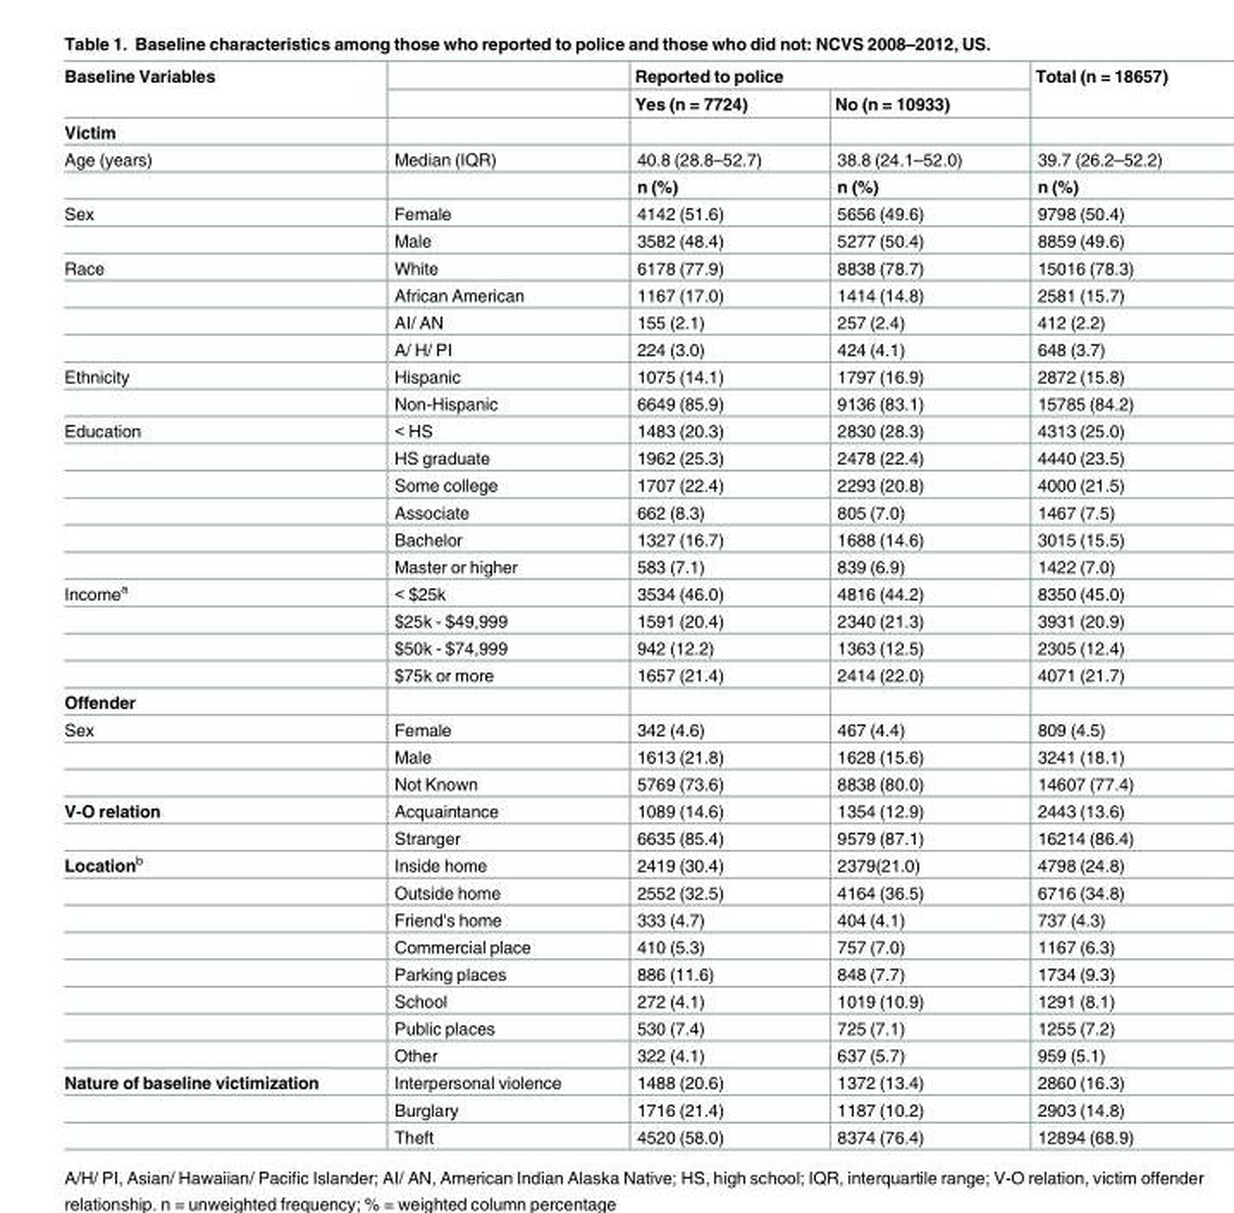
<table><thead><tr><td rowspan="2">Baseline Variables</td><td rowspan="2"></td><td colspan="2">Reported to police</td><td rowspan="2">Total (n = 18657)</td></tr><tr><td>Yes (n = 7724)</td><td>No (n = 10933)</td></tr></thead><tbody><tr><td colspan="5">Victim</td></tr><tr><td rowspan="2">Age (years)</td><td>Median (IQR)</td><td>40.8 (28.8–52.7)</td><td>38.8 (24.1–52.0)</td><td>39.7 (26.2–52.2)</td></tr><tr><td></td><td>n (%)</td><td>n (%)</td><td>n (%)</td></tr><tr><td rowspan="2">Sex</td><td>Female</td><td>4142 (51.6)</td><td>5656 (49.6)</td><td>9798 (50.4)</td></tr><tr><td>Male</td><td>3582 (48.4)</td><td>5277 (50.4)</td><td>8859 (49.6)</td></tr><tr><td rowspan="4">Race</td><td>White</td><td>6178 (77.9)</td><td>8838 (78.7)</td><td>15016 (78.3)</td></tr><tr><td>African American</td><td>1167 (17.0)</td><td>1414 (14.8)</td><td>2581 (15.7)</td></tr><tr><td>AI/ AN</td><td>155 (2.1)</td><td>257 (2.4)</td><td>412 (2.2)</td></tr><tr><td>A/ H/ PI</td><td>224 (3.0)</td><td>424 (4.1)</td><td>648 (3.7)</td></tr><tr><td rowspan="2">Ethnicity</td><td>Hispanic</td><td>1075 (14.1)</td><td>1797 (16.9)</td><td>2872 (15.8)</td></tr><tr><td>Non-Hispanic</td><td>6649 (85.9)</td><td>9136 (83.1)</td><td>15785 (84.2)</td></tr><tr><td rowspan="6">Education</td><td>&lt; HS</td><td>1483 (20.3)</td><td>2830 (28.3)</td><td>4313 (25.0)</td></tr><tr><td>HS graduate</td><td>1962 (25.3)</td><td>2478 (22.4)</td><td>4440 (23.5)</td></tr><tr><td>Some college</td><td>1707 (22.4)</td><td>2293 (20.8)</td><td>4000 (21.5)</td></tr><tr><td>Associate</td><td>662 (8.3)</td><td>805 (7.0)</td><td>1467 (7.5)</td></tr><tr><td>Bachelor</td><td>1327 (16.7)</td><td>1688 (14.6)</td><td>3015 (15.5)</td></tr><tr><td>Master or higher</td><td>583 (7.1)</td><td>839 (6.9)</td><td>1422 (7.0)</td></tr><tr><td rowspan="4">Income<sup>a</sup></td><td>&lt; $25k</td><td>3534 (46.0)</td><td>4816 (44.2)</td><td>8350 (45.0)</td></tr><tr><td>$25k - $49,999</td><td>1591 (20.4)</td><td>2340 (21.3)</td><td>3931 (20.9)</td></tr><tr><td>$50k - $74,999</td><td>942 (12.2)</td><td>1363 (12.5)</td><td>2305 (12.4)</td></tr><tr><td>$75k or more</td><td>1657 (21.4)</td><td>2414 (22.0)</td><td>4071 (21.7)</td></tr><tr><td colspan="5">Offender</td></tr><tr><td rowspan="3">Sex</td><td>Female</td><td>342 (4.6)</td><td>467 (4.4)</td><td>809 (4.5)</td></tr><tr><td>Male</td><td>1613 (21.8)</td><td>1628 (15.6)</td><td>3241 (18.1)</td></tr><tr><td>Not Known</td><td>5769 (73.6)</td><td>8838 (80.0)</td><td>14607 (77.4)</td></tr><tr><td rowspan="2">V-O relation</td><td>Acquaintance</td><td>1089 (14.6)</td><td>1354 (12.9)</td><td>2443 (13.6)</td></tr><tr><td>Stranger</td><td>6635 (85.4)</td><td>9579 (87.1)</td><td>16214 (86.4)</td></tr><tr><td rowspan="8">Location<sup>b</sup></td><td>Inside home</td><td>2419 (30.4)</td><td>2379(21.0)</td><td>4798 (24.8)</td></tr><tr><td>Outside home</td><td>2552 (32.5)</td><td>4164 (36.5)</td><td>6716 (34.8)</td></tr><tr><td>Friend&#x27;s home</td><td>333 (4.7)</td><td>404 (4.1)</td><td>737 (4.3)</td></tr><tr><td>Commercial place</td><td>410 (5.3)</td><td>757 (7.0)</td><td>1167 (6.3)</td></tr><tr><td>Parking places</td><td>886 (11.6)</td><td>848 (7.7)</td><td>1734 (9.3)</td></tr><tr><td>School</td><td>272 (4.1)</td><td>1019 (10.9)</td><td>1291 (8.1)</td></tr><tr><td>Public places</td><td>530 (7.4)</td><td>725 (7.1)</td><td>1255 (7.2)</td></tr><tr><td>Other</td><td>322 (4.1)</td><td>637 (5.7)</td><td>959 (5.1)</td></tr><tr><td rowspan="3">Nature of baseline victimization</td><td>Interpersonal violence</td><td>1488 (20.6)</td><td>1372 (13.4)</td><td>2860 (16.3)</td></tr><tr><td>Burglary</td><td>1716 (21.4)</td><td>1187 (10.2)</td><td>2903 (14.8)</td></tr><tr><td>Theft</td><td>4520 (58.0)</td><td>8374 (76.4)</td><td>12894 (68.9)</td></tr></tbody></table>